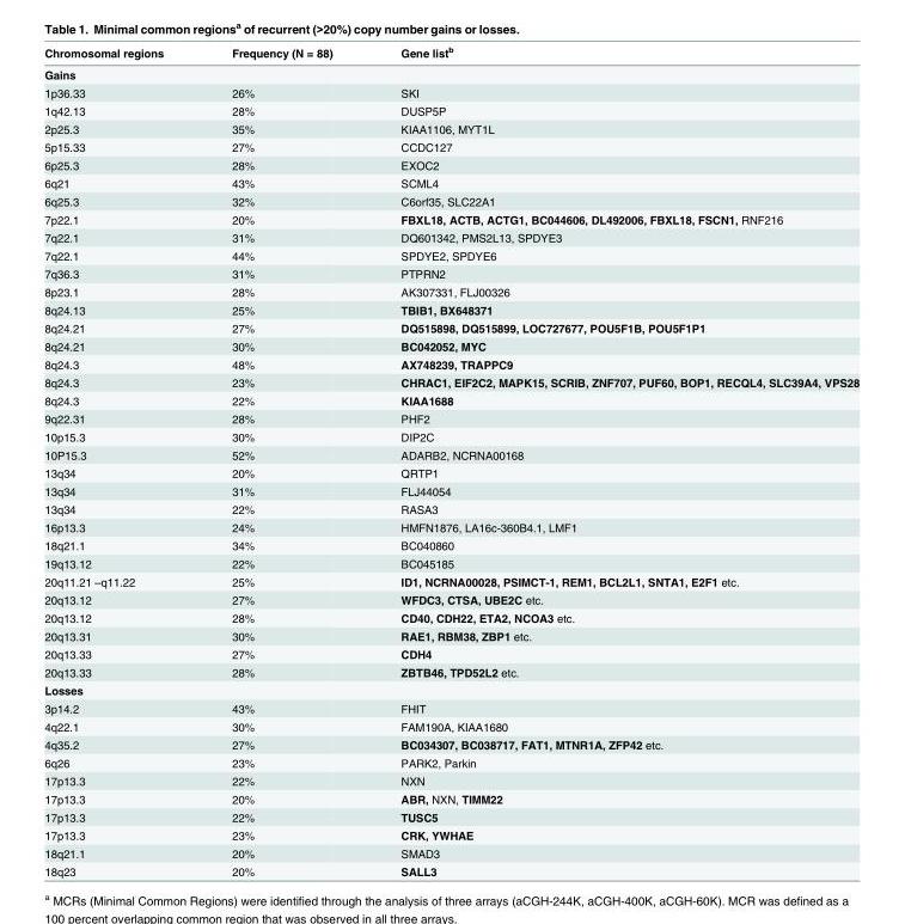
<table><thead><tr><td>Chromosomal regions</td><td>Frequency (N = 88)</td><td>Gene list<sup>b</sup></td></tr></thead><tbody><tr><td colspan="3">Gains</td></tr><tr><td>1p36.33</td><td>26%</td><td>SKI</td></tr><tr><td>1q42.13</td><td>28%</td><td>DUSP5P</td></tr><tr><td>2p25.3</td><td>35%</td><td>KIAA1106, MYT1L</td></tr><tr><td>5p15.33</td><td>27%</td><td>CCDC127</td></tr><tr><td>6p25.3</td><td>28%</td><td>EXOC2</td></tr><tr><td>6q21</td><td>43%</td><td>SCML4</td></tr><tr><td>6q25.3</td><td>32%</td><td>C6orf35, SLC22A1</td></tr><tr><td>7p22.1</td><td>20%</td><td>FBXL18, ACTB, ACTG1, BC044606, DL492006, FBXL18, FSCN1, RNF216</td></tr><tr><td>7q22.1</td><td>31%</td><td>DQ601342, PMS2L13, SPDYE3</td></tr><tr><td>7q22.1</td><td>44%</td><td>SPDYE2, SPDYE6</td></tr><tr><td>7q36.3</td><td>31%</td><td>PTPRN2</td></tr><tr><td>8p23.1</td><td>28%</td><td>AK307331, FLJ00326</td></tr><tr><td>8q24.13</td><td>25%</td><td>TBIB1, BX648371</td></tr><tr><td>8q24.21</td><td>27%</td><td>DQ515898, DQ515899, LOC727677, POU5F1B, POU5F1P1</td></tr><tr><td>8q24.21</td><td>30%</td><td>BC042052, MYC</td></tr><tr><td>8q24.3</td><td>48%</td><td>AX748239, TRAPPC9</td></tr><tr><td>8q24.3</td><td>23%</td><td>CHRAC1, EIF2C2, MAPK15, SCRIB, ZNF707, PUF60, BOP1, RECQL4, SLC39A4, VPS28</td></tr><tr><td>8q24.3</td><td>22%</td><td>KIAA1688</td></tr><tr><td>9q22.31</td><td>28%</td><td>PHF2</td></tr><tr><td>10p15.3</td><td>30%</td><td>DIP2C</td></tr><tr><td>10P15.3</td><td>52%</td><td>ADARB2, NCRNA00168</td></tr><tr><td>13q34</td><td>20%</td><td>QRTP1</td></tr><tr><td>13q34</td><td>31%</td><td>FLJ44054</td></tr><tr><td>13q34</td><td>22%</td><td>RASA3</td></tr><tr><td>16p13.3</td><td>24%</td><td>HMFN1876, LA16c-360B4.1, LMF1</td></tr><tr><td>18q21.1</td><td>34%</td><td>BC040860</td></tr><tr><td>19q13.12</td><td>22%</td><td>BC045185</td></tr><tr><td>20q11.21 –q11.22</td><td>25%</td><td>ID1, NCRNA00028, PSIMCT-1, REM1, BCL2L1, SNTA1, E2F1 etc.</td></tr><tr><td>20q13.12</td><td>27%</td><td>WFDC3, CTSA, UBE2C etc.</td></tr><tr><td>20q13.12</td><td>28%</td><td>CD40, CDH22, ETA2, NCOA3 etc.</td></tr><tr><td>20q13.31</td><td>30%</td><td>RAE1, RBM38, ZBP1 etc.</td></tr><tr><td>20q13.33</td><td>27%</td><td>CDH4</td></tr><tr><td>20q13.33</td><td>28%</td><td>ZBTB46, TPD52L2 etc.</td></tr><tr><td colspan="3">Losses</td></tr><tr><td>3p14.2</td><td>43%</td><td>FHIT</td></tr><tr><td>4q22.1</td><td>30%</td><td>FAM190A, KIAA1680</td></tr><tr><td>4q35.2</td><td>27%</td><td>BC034307, BC038717, FAT1, MTNR1A, ZFP42 etc.</td></tr><tr><td>6q26</td><td>23%</td><td>PARK2, Parkin</td></tr><tr><td>17p13.3</td><td>22%</td><td>NXN</td></tr><tr><td>17p13.3</td><td>20%</td><td>ABR, NXN, TIMM22</td></tr><tr><td>17p13.3</td><td>22%</td><td>TUSC5</td></tr><tr><td>17p13.3</td><td>23%</td><td>CRK, YWHAE</td></tr><tr><td>18q21.1</td><td>20%</td><td>SMAD3</td></tr><tr><td>18q23</td><td>20%</td><td>SALL3</td></tr></tbody></table>